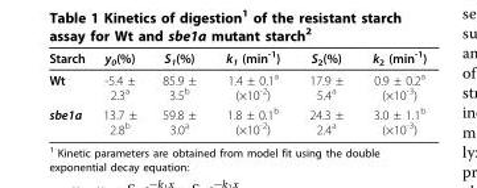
<table><thead><tr><td>Starch</td><td>y<sub>0</sub>(%)</td><td>S<sub>1</sub>(%)</td><td>k<sub>1</sub> (min<sup>-1</sup>)</td><td>S<sub>2</sub>(%)</td><td>k<sub>2</sub> (min<sup>-1</sup>)</td></tr></thead><tbody><tr><td>Wt</td><td>-5.4 ± 2.3<sup>a</sup></td><td>85.9 ± 3.5<sup>b</sup></td><td>1.4 ± 0.1<sup>a</sup> (×10<sup>-2</sup>)</td><td>17.9 ± 5.4<sup>a</sup></td><td>0.9 ± 0.2<sup>a</sup> (×10<sup>-3</sup>)</td></tr><tr><td>sbe1a</td><td>13.7 ± 2.8<sup>b</sup></td><td>59.8 ± 3.0<sup>a</sup></td><td>1.8 ± 0.1<sup>b</sup> (×10<sup>-2</sup>)</td><td>24.3 ± 2.4<sup>a</sup></td><td>3.0 ± 1.1<sup>b</sup> (×10<sup>-3</sup>)</td></tr></tbody></table>